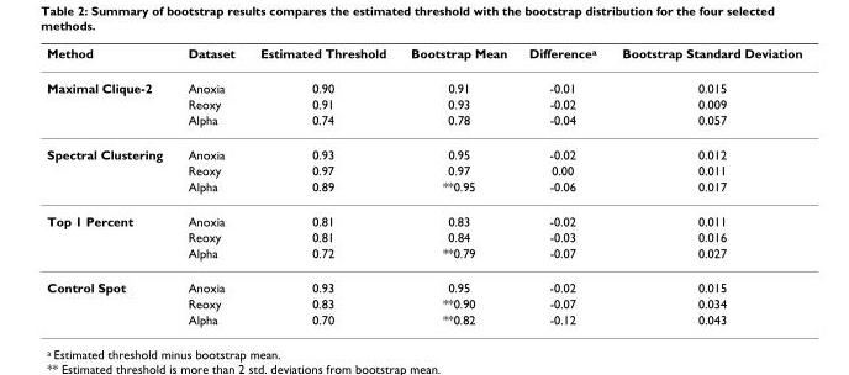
<table><thead><tr><td>Method</td><td>Dataset</td><td>Estimated Threshold</td><td>Bootstrap Mean</td><td>Difference<sup>a</sup></td><td>Bootstrap Standard Deviation</td></tr></thead><tbody><tr><td rowspan="3">Maximal Clique-2</td><td>Anoxia</td><td>0.90</td><td>0.91</td><td>-0.01</td><td>0.015</td></tr><tr><td>Reoxy</td><td>0.91</td><td>0.93</td><td>-0.02</td><td>0.009</td></tr><tr><td>Alpha</td><td>0.74</td><td>0.78</td><td>-0.04</td><td>0.057</td></tr><tr><td rowspan="3">Spectral Clustering</td><td>Anoxia</td><td>0.93</td><td>0.95</td><td>-0.02</td><td>0.012</td></tr><tr><td>Reoxy</td><td>0.97</td><td>0.97</td><td>0.00</td><td>0.011</td></tr><tr><td>Alpha</td><td>0.89</td><td>**0.95</td><td>-0.06</td><td>0.017</td></tr><tr><td rowspan="3">Top 1 Percent</td><td>Anoxia</td><td>0.81</td><td>0.83</td><td>-0.02</td><td>0.011</td></tr><tr><td>Reoxy</td><td>0.81</td><td>0.84</td><td>-0.03</td><td>0.016</td></tr><tr><td>Alpha</td><td>0.72</td><td>**0.79</td><td>-0.07</td><td>0.027</td></tr><tr><td rowspan="3">Control Spot</td><td>Anoxia</td><td>0.93</td><td>0.95</td><td>-0.02</td><td>0.015</td></tr><tr><td>Reoxy</td><td>0.83</td><td>**0.90</td><td>-0.07</td><td>0.034</td></tr><tr><td>Alpha</td><td>0.70</td><td>**0.82</td><td>-0.12</td><td>0.043</td></tr></tbody></table>